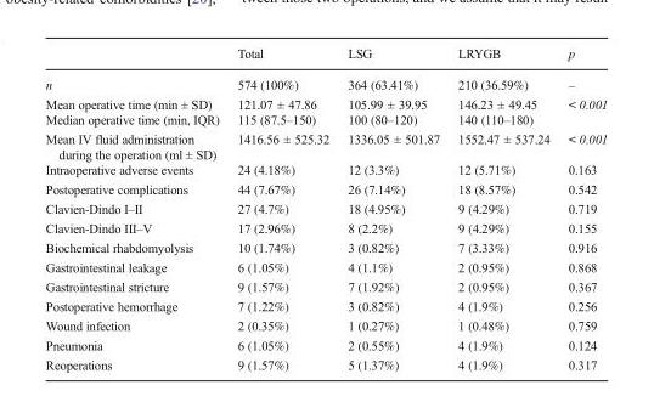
<table><thead><tr><td></td><td>Total</td><td>LSG</td><td>LRYGB</td><td>p</td></tr></thead><tbody><tr><td>n</td><td>574 (100%)</td><td>364 (63.41%)</td><td>210 (36.59%)</td><td>–</td></tr><tr><td>Mean operative time (min ± SD)</td><td>121.07 ± 47.86</td><td>105.99 ± 39.95</td><td>146.23 ± 49.45</td><td rowspan="2">&lt; 0.001</td></tr><tr><td>Median operative time (min, IQR)</td><td>115 (87.5–150)</td><td>100 (80–120)</td><td>140 (110–180)</td></tr><tr><td>Mean IV fluid administration during the operation (ml ± SD)</td><td>1416.56 ± 525.32</td><td>1336.05 ± 501.87</td><td>1552.47 ± 537.24</td><td>&lt; 0.001</td></tr><tr><td>Intraoperative adverse events</td><td>24 (4.18%)</td><td>12 (3.3%)</td><td>12 (5.71%)</td><td>0.163</td></tr><tr><td>Postoperative complications</td><td>44 (7.67%)</td><td>26 (7.14%)</td><td>18 (8.57%)</td><td>0.542</td></tr><tr><td>Clavien-Dindo I–II</td><td>27 (4.7%)</td><td>18 (4.95%)</td><td>9 (4.29%)</td><td>0.719</td></tr><tr><td>Clavien-Dindo III–V</td><td>17 (2.96%)</td><td>8 (2.2%)</td><td>9 (4.29%)</td><td>0.155</td></tr><tr><td>Biochemical rhabdomyolysis</td><td>10 (1.74%)</td><td>3 (0.82%)</td><td>7 (3.33%)</td><td>0.916</td></tr><tr><td>Gastrointestinal leakage</td><td>6 (1.05%)</td><td>4 (1.1%)</td><td>2 (0.95%)</td><td>0.868</td></tr><tr><td>Gastrointestinal stricture</td><td>9 (1.57%)</td><td>7 (1.92%)</td><td>2 (0.95%)</td><td>0.367</td></tr><tr><td>Postoperative hemorrhage</td><td>7 (1.22%)</td><td>3 (0.82%)</td><td>4 (1.9%)</td><td>0.256</td></tr><tr><td>Wound infection</td><td>2 (0.35%)</td><td>1 (0.27%)</td><td>1 (0.48%)</td><td>0.759</td></tr><tr><td>Pneumonia</td><td>6 (1.05%)</td><td>2 (0.55%)</td><td>4 (1.9%)</td><td>0.124</td></tr><tr><td>Reoperations</td><td>9 (1.57%)</td><td>5 (1.37%)</td><td>4 (1.9%)</td><td>0.317</td></tr></tbody></table>